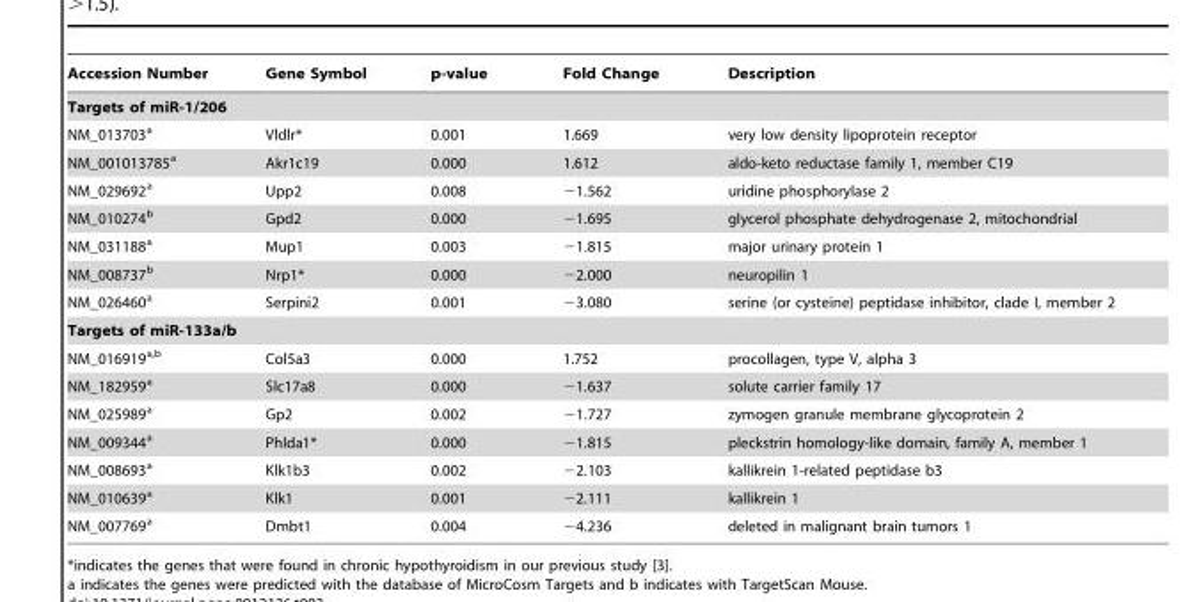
<table><thead><tr><td>Accession Number</td><td>Gene Symbol</td><td>p-value</td><td>Fold Change</td><td>Description</td></tr></thead><tbody><tr><td colspan="5">Targets of miR-1/206</td></tr><tr><td>NM_013703<sup>a</sup></td><td>Vldlr*</td><td>0.001</td><td>1.669</td><td>very low density lipoprotein receptor</td></tr><tr><td>NM_001013785<sup>a</sup></td><td>Akr1c19</td><td>0.000</td><td>1.612</td><td>aldo-keto reductase family 1, member C19</td></tr><tr><td>NM_029692<sup>a</sup></td><td>Upp2</td><td>0.008</td><td>−1.562</td><td>uridine phosphorylase 2</td></tr><tr><td>NM_010274<sup>b</sup></td><td>Gpd2</td><td>0.000</td><td>−1.695</td><td>glycerol phosphate dehydrogenase 2, mitochondrial</td></tr><tr><td>NM_031188<sup>a</sup></td><td>Mup1</td><td>0.003</td><td>−1.815</td><td>major urinary protein 1</td></tr><tr><td>NM_008737<sup>b</sup></td><td>Nrp1*</td><td>0.000</td><td>−2.000</td><td>neuropilin 1</td></tr><tr><td>NM_026460<sup>a</sup></td><td>Serpini2</td><td>0.001</td><td>−3.080</td><td>serine (or cysteine) peptidase inhibitor, clade I, member 2</td></tr><tr><td colspan="5">Targets of miR-133a/b</td></tr><tr><td>NM_016919<sup>a,b</sup></td><td>Col5a3</td><td>0.000</td><td>1.752</td><td>procollagen, type V, alpha 3</td></tr><tr><td>NM_182959<sup>a</sup></td><td>Slc17a8</td><td>0.000</td><td>−1.637</td><td>solute carrier family 17</td></tr><tr><td>NM_025989<sup>a</sup></td><td>Gp2</td><td>0.002</td><td>−1.727</td><td>zymogen granule membrane glycoprotein 2</td></tr><tr><td>NM_009344<sup>a</sup></td><td>Phlda1*</td><td>0.000</td><td>−1.815</td><td>pleckstrin homology-like domain, family A, member 1</td></tr><tr><td>NM_008693<sup>a</sup></td><td>Klk1b3</td><td>0.002</td><td>−2.103</td><td>kallikrein 1-related peptidase b3</td></tr><tr><td>NM_010639<sup>a</sup></td><td>Klk1</td><td>0.001</td><td>−2.111</td><td>kallikrein 1</td></tr><tr><td>NM_007769<sup>a</sup></td><td>Dmbt1</td><td>0.004</td><td>−4.236</td><td>deleted in malignant brain tumors 1</td></tr></tbody></table>